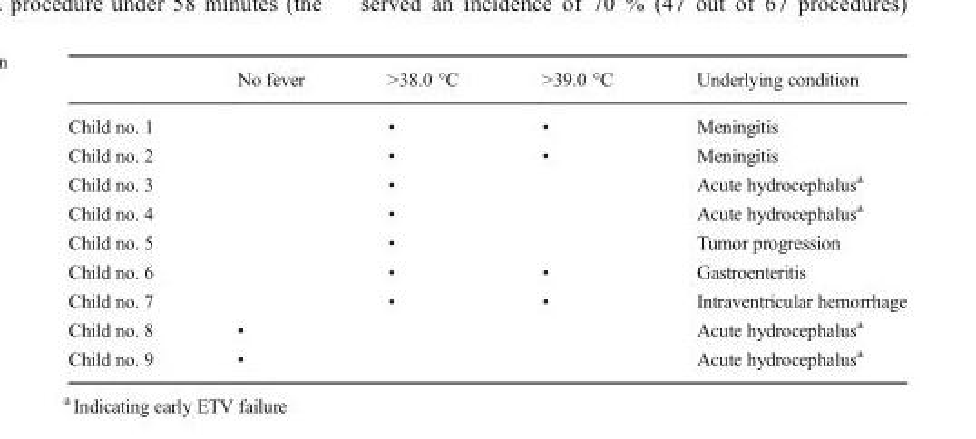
<table><thead><tr><td></td><td>No fever</td><td>&gt;38.0 °C</td><td>&gt;39.0 °C</td><td>Underlying condition</td></tr></thead><tbody><tr><td>Child no. 1</td><td></td><td>•</td><td>•</td><td>Meningitis</td></tr><tr><td>Child no. 2</td><td></td><td>•</td><td>•</td><td>Meningitis</td></tr><tr><td>Child no. 3</td><td></td><td>•</td><td></td><td>Acute hydrocephalus<sup>a</sup></td></tr><tr><td>Child no. 4</td><td></td><td>•</td><td></td><td>Acute hydrocephalus<sup>a</sup></td></tr><tr><td>Child no. 5</td><td></td><td>•</td><td></td><td>Tumor progression</td></tr><tr><td>Child no. 6</td><td></td><td>•</td><td>•</td><td>Gastroenteritis</td></tr><tr><td>Child no. 7</td><td></td><td>•</td><td>•</td><td>Intraventricular hemorrhage</td></tr><tr><td>Child no. 8</td><td>•</td><td></td><td></td><td>Acute hydrocephalus<sup>a</sup></td></tr><tr><td>Child no. 9</td><td>•</td><td></td><td></td><td>Acute hydrocephalus<sup>a</sup></td></tr></tbody></table>